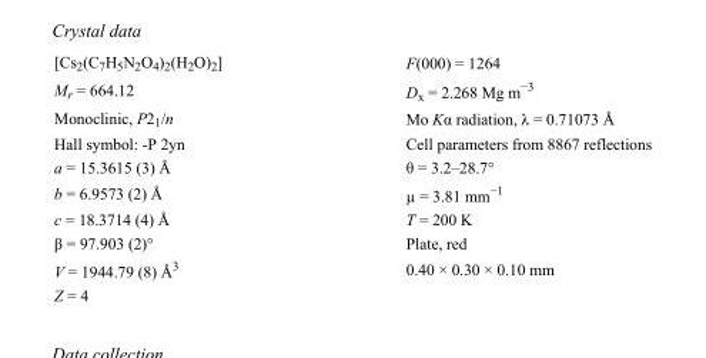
<table><tbody><tr><td>[Cs<sub>2</sub>(C<sub>7</sub>H<sub>5</sub>N<sub>2</sub>O<sub>4</sub>)<sub>2</sub>(H<sub>2</sub>O)<sub>2</sub>]</td><td>F(000) = 1264</td></tr><tr><td>M<sub>r</sub> = 664.12</td><td>D<sub>x</sub> = 2.268 Mg m<sup>−3</sup></td></tr><tr><td>Monoclinic, P2<sub>1</sub>/n</td><td>Mo Kα radiation, λ = 0.71073 Å</td></tr><tr><td>Hall symbol: -P 2yn</td><td>Cell parameters from 8867 reflections</td></tr><tr><td>a = 15.3615 (3) Å</td><td>θ = 3.2–28.7°</td></tr><tr><td>b = 6.9573 (2) Å</td><td>µ = 3.81 mm<sup>−1</sup></td></tr><tr><td>c = 18.3714 (4) Å</td><td>T = 200 K</td></tr><tr><td>β = 97.903 (2)°</td><td>Plate, red</td></tr><tr><td>V = 1944.79 (8) Å<sup>3</sup></td><td>0.40 × 0.30 × 0.10 mm</td></tr><tr><td>Z = 4</td><td></td></tr></tbody></table>